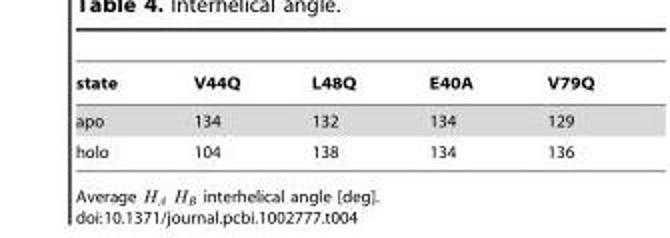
<table><thead><tr><td>state</td><td>V44Q</td><td>L48Q</td><td>E40A</td><td>V79Q</td></tr></thead><tbody><tr><td>apo</td><td>134</td><td>132</td><td>134</td><td>129</td></tr><tr><td>holo</td><td>104</td><td>138</td><td>134</td><td>136</td></tr></tbody></table>